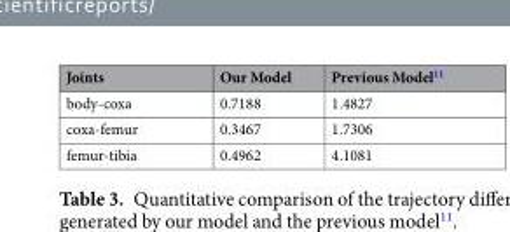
<table><thead><tr><td>Joints</td><td>Our Model</td><td>Previous Model<sup>11</sup></td></tr></thead><tbody><tr><td>body-coxa</td><td>0.7188</td><td>1.4827</td></tr><tr><td>coxa-femur</td><td>0.3467</td><td>1.7306</td></tr><tr><td>femur-tibia</td><td>0.4962</td><td>4.1081</td></tr></tbody></table>